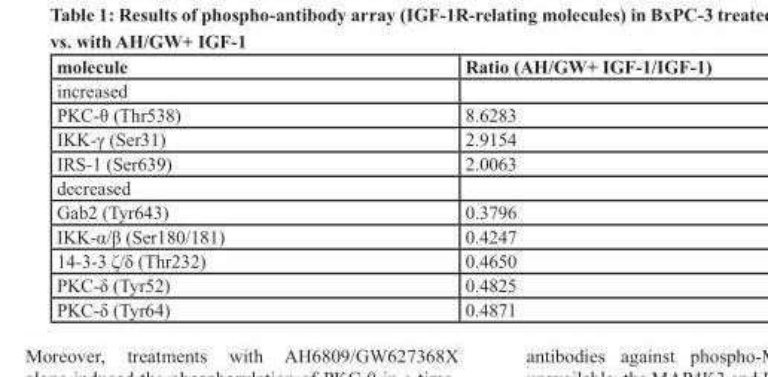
<table><thead><tr><td>molecule</td><td>Ratio (AH/GW+ IGF-1/IGF-1)</td></tr></thead><tbody><tr><td colspan="2">increased</td></tr><tr><td>PKC-θ (Thr538)</td><td>8.6283</td></tr><tr><td>IKK-γ (Ser31)</td><td>2.9154</td></tr><tr><td>IRS-1 (Ser639)</td><td>2.0063</td></tr><tr><td colspan="2">decreased</td></tr><tr><td>Gab2 (Tyr643)</td><td>0.3796</td></tr><tr><td>IKK-α/β (Ser180/181)</td><td>0.4247</td></tr><tr><td>14-3-3 ζ/δ (Thr232)</td><td>0.4650</td></tr><tr><td>PKC-δ (Tyr52)</td><td>0.4825</td></tr><tr><td>PKC-δ (Tyr64)</td><td>0.4871</td></tr></tbody></table>